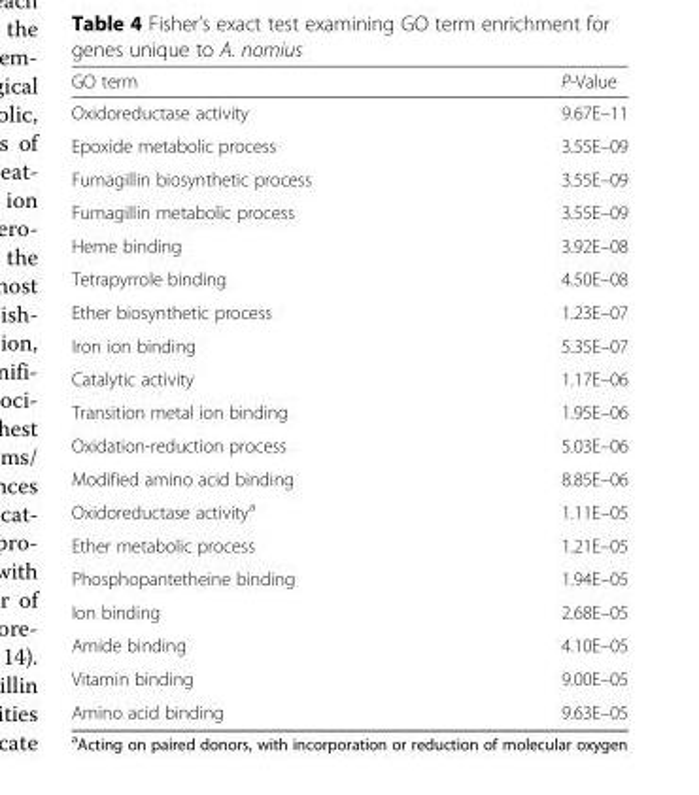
<table><thead><tr><td>GO term</td><td>P-Value</td></tr></thead><tbody><tr><td>Oxidoreductase activity</td><td>9.67E–11</td></tr><tr><td>Epoxide metabolic process</td><td>3.55E–09</td></tr><tr><td>Fumagillin biosynthetic process</td><td>3.55E–09</td></tr><tr><td>Fumagillin metabolic process</td><td>3.55E–09</td></tr><tr><td>Heme binding</td><td>3.92E–08</td></tr><tr><td>Tetrapyrrole binding</td><td>4.50E–08</td></tr><tr><td>Ether biosynthetic process</td><td>1.23E–07</td></tr><tr><td>Iron ion binding</td><td>5.35E–07</td></tr><tr><td>Catalytic activity</td><td>1.17E–06</td></tr><tr><td>Transition metal ion binding</td><td>1.95E–06</td></tr><tr><td>Oxidation-reduction process</td><td>5.03E–06</td></tr><tr><td>Modified amino acid binding</td><td>8.85E–06</td></tr><tr><td>Oxidoreductase activity<sup>a</sup></td><td>1.11E–05</td></tr><tr><td>Ether metabolic process</td><td>1.21E–05</td></tr><tr><td>Phosphopantetheine binding</td><td>1.94E–05</td></tr><tr><td>Ion binding</td><td>2.68E–05</td></tr><tr><td>Amide binding</td><td>4.10E–05</td></tr><tr><td>Vitamin binding</td><td>9.00E–05</td></tr><tr><td>Amino acid binding</td><td>9.63E–05</td></tr></tbody></table>